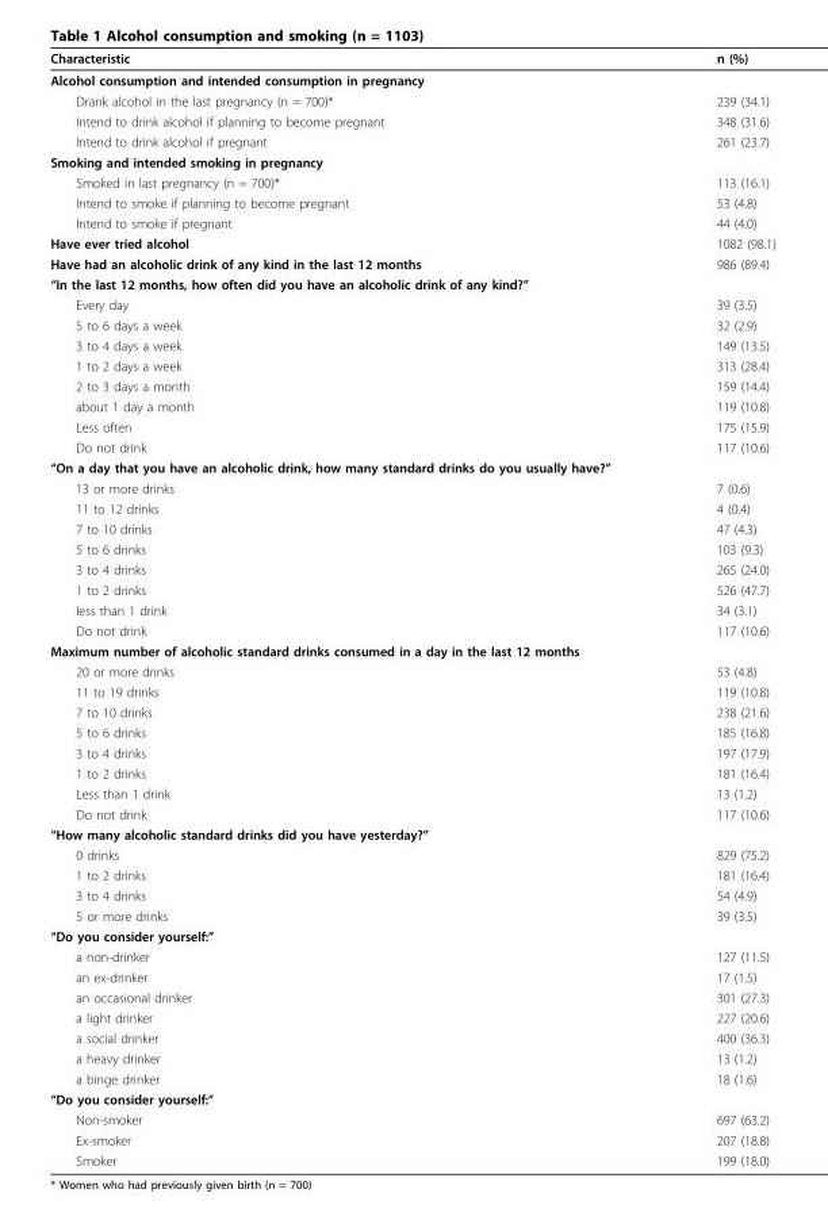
<table><thead><tr><td>Characteristic</td><td>n (%)</td></tr></thead><tbody><tr><td colspan="2">Alcohol consumption and intended consumption in pregnancy</td></tr><tr><td>Drank alcohol in the last pregnancy (n = 700)*</td><td>239 (34.1)</td></tr><tr><td>Intend to drink alcohol if planning to become pregnant</td><td>348 (31.6)</td></tr><tr><td>Intend to drink alcohol if pregnant</td><td>261 (23.7)</td></tr><tr><td colspan="2">Smoking and intended smoking in pregnancy</td></tr><tr><td>Smoked in last pregnancy (n = 700)*</td><td>113 (16.1)</td></tr><tr><td>Intend to smoke if planning to become pregnant</td><td>53 (4.8)</td></tr><tr><td>Intend to smoke if pregnant</td><td>44 (4.0)</td></tr><tr><td>Have ever tried alcohol</td><td>1082 (98.1)</td></tr><tr><td>Have had an alcoholic drink of any kind in the last 12 months</td><td>986 (89.4)</td></tr><tr><td colspan="2">“In the last 12 months, how often did you have an alcoholic drink of any kind?”</td></tr><tr><td>Every day</td><td>39 (3.5)</td></tr><tr><td>5 to 6 days a week</td><td>32 (2.9)</td></tr><tr><td>3 to 4 days a week</td><td>149 (13.5)</td></tr><tr><td>1 to 2 days a week</td><td>313 (28.4)</td></tr><tr><td>2 to 3 days a month</td><td>159 (14.4)</td></tr><tr><td>about 1 day a month</td><td>119 (10.8)</td></tr><tr><td>Less often</td><td>175 (15.9)</td></tr><tr><td>Do not drink</td><td>117 (10.6)</td></tr><tr><td colspan="2">“On a day that you have an alcoholic drink, how many standard drinks do you usually have?”</td></tr><tr><td>13 or more drinks</td><td>7 (0.6)</td></tr><tr><td>11 to 12 drinks</td><td>4 (0.4)</td></tr><tr><td>7 to 10 drinks</td><td>47 (4.3)</td></tr><tr><td>5 to 6 drinks</td><td>103 (9.3)</td></tr><tr><td>3 to 4 drinks</td><td>265 (24.0)</td></tr><tr><td>1 to 2 drinks</td><td>526 (47.7)</td></tr><tr><td>less than 1 drink</td><td>34 (3.1)</td></tr><tr><td>Do not drink</td><td>117 (10.6)</td></tr><tr><td colspan="2">Maximum number of alcoholic standard drinks consumed in a day in the last 12 months</td></tr><tr><td>20 or more drinks</td><td>53 (4.8)</td></tr><tr><td>11 to 19 drinks</td><td>119 (10.8)</td></tr><tr><td>7 to 10 drinks</td><td>238 (21.6)</td></tr><tr><td>5 to 6 drinks</td><td>185 (16.8)</td></tr><tr><td>3 to 4 drinks</td><td>197 (17.9)</td></tr><tr><td>1 to 2 drinks</td><td>181 (16.4)</td></tr><tr><td>Less than 1 drink</td><td>13 (1.2)</td></tr><tr><td>Do not drink</td><td>117 (10.6)</td></tr><tr><td colspan="2">“How many alcoholic standard drinks did you have yesterday?”</td></tr><tr><td>0 drinks</td><td>829 (75.2)</td></tr><tr><td>1 to 2 drinks</td><td>181 (16.4)</td></tr><tr><td>3 to 4 drinks</td><td>54 (4.9)</td></tr><tr><td>5 or more drinks</td><td>39 (3.5)</td></tr><tr><td colspan="2">“Do you consider yourself:”</td></tr><tr><td>a non-drinker</td><td>127 (11.5)</td></tr><tr><td>an ex-drinker</td><td>17 (1.5)</td></tr><tr><td>an occasional drinker</td><td>301 (27.3)</td></tr><tr><td>a light drinker</td><td>227 (20.6)</td></tr><tr><td>a social drinker</td><td>400 (36.3)</td></tr><tr><td>a heavy drinker</td><td>13 (1.2)</td></tr><tr><td>a binge drinker</td><td>18 (1.6)</td></tr><tr><td colspan="2">“Do you consider yourself:”</td></tr><tr><td>Non-smoker</td><td>697 (63.2)</td></tr><tr><td>Ex-smoker</td><td>207 (18.8)</td></tr><tr><td>Smoker</td><td>199 (18.0)</td></tr></tbody></table>